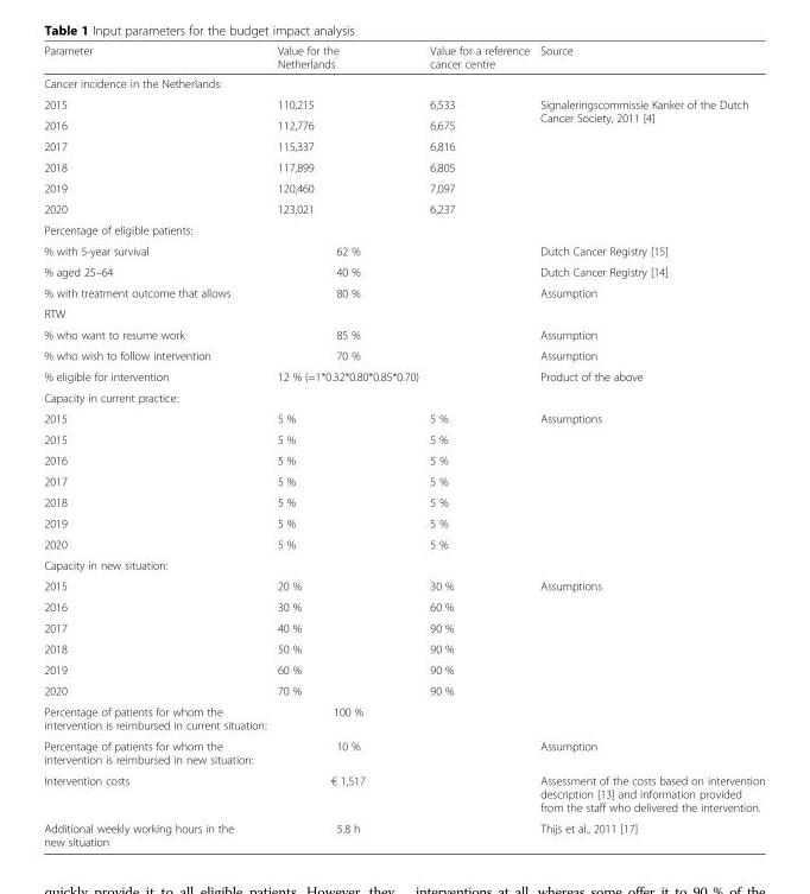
<table><thead><tr><td>Parameter</td><td>Value for the Netherlands</td><td>Value for a reference cancer centre</td><td>Source</td></tr></thead><tbody><tr><td colspan="4">Cancer incidence in the Netherlands:</td></tr><tr><td>2015</td><td>110,215</td><td>6,533</td><td rowspan="6">Signaleringscommissie Kanker of the Dutch Cancer Society, 2011 [4]</td></tr><tr><td>2016</td><td>112,776</td><td>6,675</td></tr><tr><td>2017</td><td>115,337</td><td>6,816</td></tr><tr><td>2018</td><td>117,899</td><td>6,805</td></tr><tr><td>2019</td><td>120,460</td><td>7,097</td></tr><tr><td>2020</td><td>123,021</td><td>6,237</td></tr><tr><td colspan="4">Percentage of eligible patients:</td></tr><tr><td>% with 5-year survival</td><td>62 %</td><td></td><td>Dutch Cancer Registry [15]</td></tr><tr><td>% aged 25–64</td><td>40 %</td><td></td><td>Dutch Cancer Registry [14]</td></tr><tr><td>% with treatment outcome that allows</td><td>80 %</td><td></td><td>Assumption</td></tr><tr><td colspan="4">RTW</td></tr><tr><td>% who want to resume work</td><td>85 %</td><td></td><td>Assumption</td></tr><tr><td>% who wish to follow intervention</td><td>70 %</td><td></td><td>Assumption</td></tr><tr><td>% eligible for intervention</td><td>12 % (=1*0.32*0.80*0.85*0.70)</td><td></td><td>Product of the above</td></tr><tr><td colspan="4">Capacity in current practice:</td></tr><tr><td>2015</td><td>5 %</td><td>5 %</td><td rowspan="7">Assumptions</td></tr><tr><td>2015</td><td>5 %</td><td>5 %</td></tr><tr><td>2016</td><td>5 %</td><td>5 %</td></tr><tr><td>2017</td><td>5 %</td><td>5 %</td></tr><tr><td>2018</td><td>5 %</td><td>5 %</td></tr><tr><td>2019</td><td>5 %</td><td>5 %</td></tr><tr><td>2020</td><td>5 %</td><td>5 %</td></tr><tr><td colspan="4">Capacity in new situation:</td></tr><tr><td>2015</td><td>20 %</td><td>30 %</td><td rowspan="6">Assumptions</td></tr><tr><td>2016</td><td>30 %</td><td>60 %</td></tr><tr><td>2017</td><td>40 %</td><td>90 %</td></tr><tr><td>2018</td><td>50 %</td><td>90 %</td></tr><tr><td>2019</td><td>60 %</td><td>90 %</td></tr><tr><td>2020</td><td>70 %</td><td>90 %</td></tr><tr><td>Percentage of patients for whom the intervention is reimbursed in current situation:</td><td>100 %</td><td></td><td></td></tr><tr><td>Percentage of patients for whom the intervention is reimbursed in new situation:</td><td>10 %</td><td></td><td>Assumption</td></tr><tr><td>Intervention costs</td><td>€ 1,517</td><td></td><td>Assessment of the costs based on intervention description [13] and information provided from the staff who delivered the intervention.</td></tr><tr><td>Additional weekly working hours in the new situation</td><td>5.8 h</td><td></td><td>Thijs et al., 2011 [17]</td></tr></tbody></table>